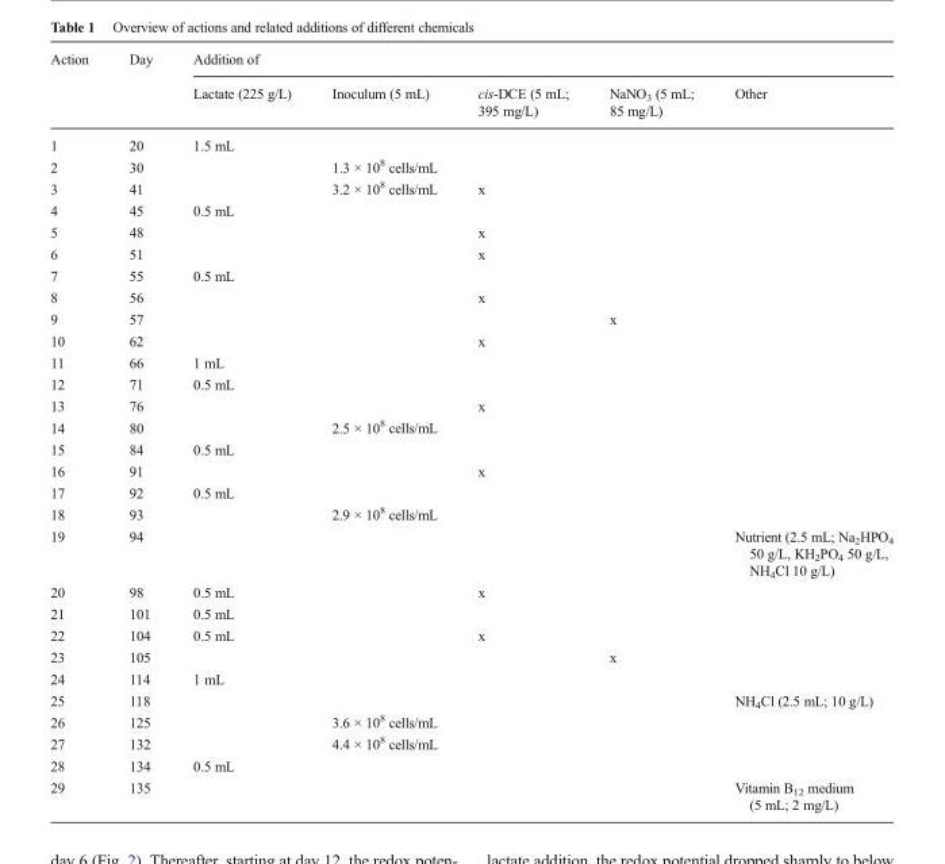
<table><thead><tr><td rowspan="2">Action</td><td rowspan="2">Day</td><td colspan="5">Addition of</td></tr><tr><td>Lactate (225 g/L)</td><td>Inoculum (5 mL)</td><td>cis-DCE (5 mL; 395 mg/L)</td><td>NaNO<sub>3</sub> (5 mL; 85 mg/L)</td><td>Other</td></tr></thead><tbody><tr><td>1</td><td>20</td><td>1.5 mL</td><td></td><td></td><td></td><td></td></tr><tr><td>2</td><td>30</td><td></td><td>1.3 × 10<sup>8</sup> cells/mL</td><td></td><td></td><td></td></tr><tr><td>3</td><td>41</td><td></td><td>3.2 × 10<sup>8</sup> cells/mL</td><td>x</td><td></td><td></td></tr><tr><td>4</td><td>45</td><td>0.5 mL</td><td></td><td></td><td></td><td></td></tr><tr><td>5</td><td>48</td><td></td><td></td><td>x</td><td></td><td></td></tr><tr><td>6</td><td>51</td><td></td><td></td><td>x</td><td></td><td></td></tr><tr><td>7</td><td>55</td><td>0.5 mL</td><td></td><td></td><td></td><td></td></tr><tr><td>8</td><td>56</td><td></td><td></td><td>x</td><td></td><td></td></tr><tr><td>9</td><td>57</td><td></td><td></td><td></td><td>x</td><td></td></tr><tr><td>10</td><td>62</td><td></td><td></td><td>x</td><td></td><td></td></tr><tr><td>11</td><td>66</td><td>1 mL</td><td></td><td></td><td></td><td></td></tr><tr><td>12</td><td>71</td><td>0.5 mL</td><td></td><td></td><td></td><td></td></tr><tr><td>13</td><td>76</td><td></td><td></td><td>x</td><td></td><td></td></tr><tr><td>14</td><td>80</td><td></td><td>2.5 × 10<sup>8</sup> cells/mL</td><td></td><td></td><td></td></tr><tr><td>15</td><td>84</td><td>0.5 mL</td><td></td><td></td><td></td><td></td></tr><tr><td>16</td><td>91</td><td></td><td></td><td>x</td><td></td><td></td></tr><tr><td>17</td><td>92</td><td>0.5 mL</td><td></td><td></td><td></td><td></td></tr><tr><td>18</td><td>93</td><td></td><td>2.9 × 10<sup>8</sup> cells/mL</td><td></td><td></td><td></td></tr><tr><td>19</td><td>94</td><td></td><td></td><td></td><td></td><td>Nutrient (2.5 mL; Na<sub>2</sub>HPO<sub>4</sub> 50 g/L, KH<sub>2</sub>PO<sub>4</sub> 50 g/L, NH<sub>4</sub>Cl 10 g/L)</td></tr><tr><td>20</td><td>98</td><td>0.5 mL</td><td></td><td>x</td><td></td><td></td></tr><tr><td>21</td><td>101</td><td>0.5 mL</td><td></td><td></td><td></td><td></td></tr><tr><td>22</td><td>104</td><td>0.5 mL</td><td></td><td>x</td><td></td><td></td></tr><tr><td>23</td><td>105</td><td></td><td></td><td></td><td>x</td><td></td></tr><tr><td>24</td><td>114</td><td>1 mL</td><td></td><td></td><td></td><td></td></tr><tr><td>25</td><td>118</td><td></td><td></td><td></td><td></td><td>NH<sub>4</sub>Cl (2.5 mL; 10 g/L)</td></tr><tr><td>26</td><td>125</td><td></td><td>3.6 × 10<sup>8</sup> cells/mL</td><td></td><td></td><td></td></tr><tr><td>27</td><td>132</td><td></td><td>4.4 × 10<sup>8</sup> cells/mL</td><td></td><td></td><td></td></tr><tr><td>28</td><td>134</td><td>0.5 mL</td><td></td><td></td><td></td><td></td></tr><tr><td>29</td><td>135</td><td></td><td></td><td></td><td></td><td>Vitamin B<sub>12</sub> medium (5 mL; 2 mg/L)</td></tr></tbody></table>